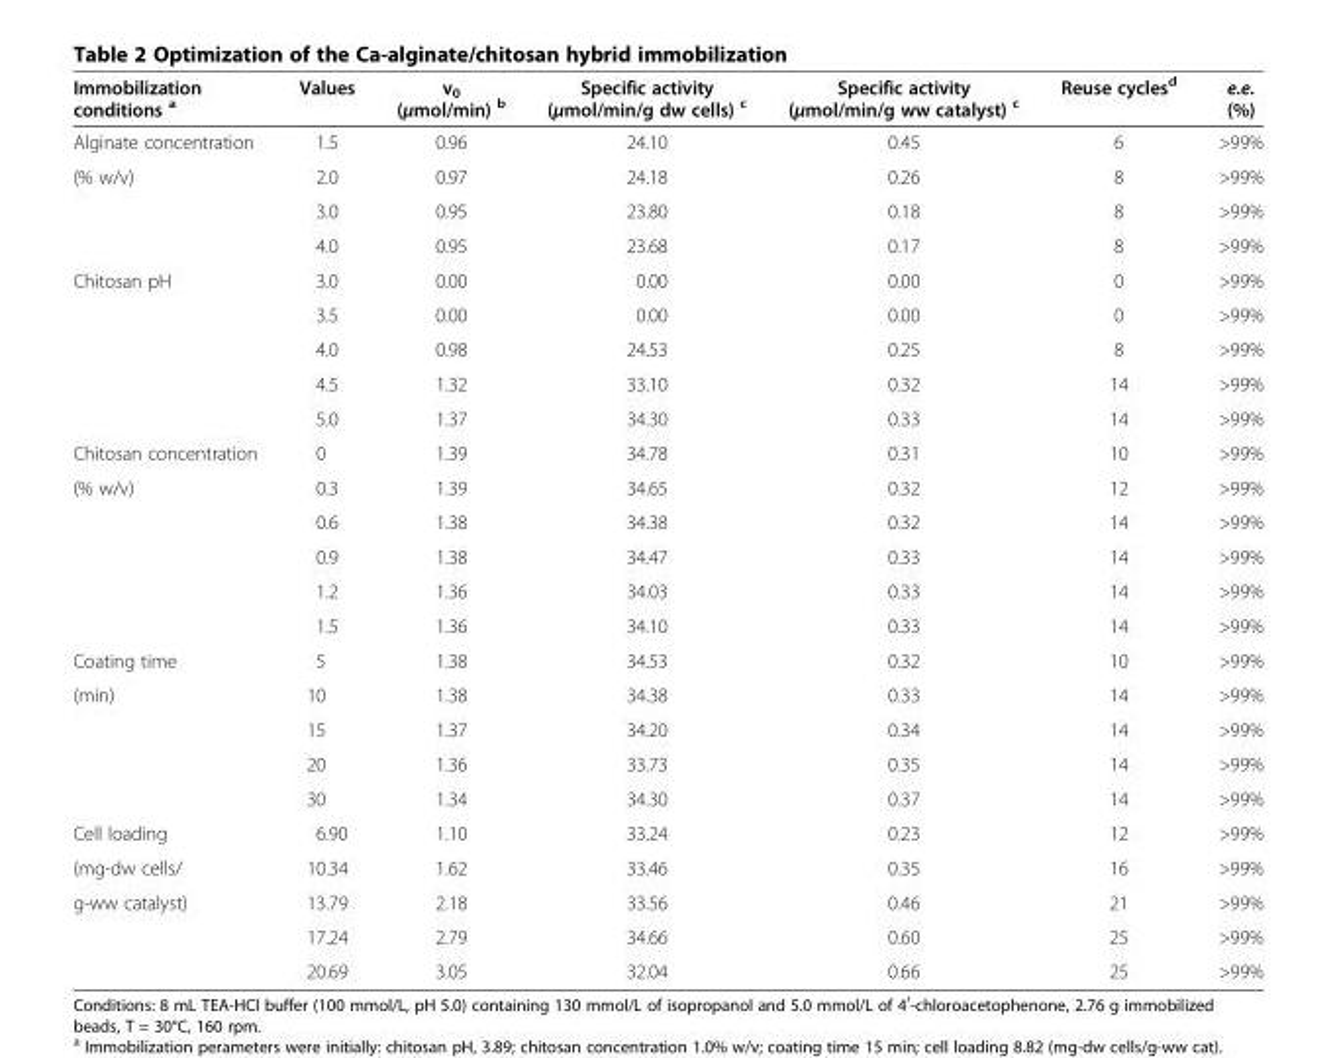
<table><thead><tr><td>Immobilization conditions <sup>a</sup></td><td>Values</td><td>v<sub>0</sub> (μmol/min) <sup>b</sup></td><td>Specific activity (μmol/min/g dw cells) <sup>c</sup></td><td>Specific activity (μmol/min/g ww catalyst) <sup>c</sup></td><td>Reuse cycles<sup>d</sup></td><td>e.e. (%)</td></tr></thead><tbody><tr><td>Alginate concentration</td><td>1.5</td><td>0.96</td><td>24.10</td><td>0.45</td><td>6</td><td>&gt;99%</td></tr><tr><td rowspan="3">(% w/v)</td><td>2.0</td><td>0.97</td><td>24.18</td><td>0.26</td><td>8</td><td>&gt;99%</td></tr><tr><td>3.0</td><td>0.95</td><td>23.80</td><td>0.18</td><td>8</td><td>&gt;99%</td></tr><tr><td>4.0</td><td>0.95</td><td>23.68</td><td>0.17</td><td>8</td><td>&gt;99%</td></tr><tr><td rowspan="5">Chitosan pH</td><td>3.0</td><td>0.00</td><td>0.00</td><td>0.00</td><td>0</td><td>&gt;99%</td></tr><tr><td>3.5</td><td>0.00</td><td>0.00</td><td>0.00</td><td>0</td><td>&gt;99%</td></tr><tr><td>4.0</td><td>0.98</td><td>24.53</td><td>0.25</td><td>8</td><td>&gt;99%</td></tr><tr><td>4.5</td><td>1.32</td><td>33.10</td><td>0.32</td><td>14</td><td>&gt;99%</td></tr><tr><td>5.0</td><td>1.37</td><td>34.30</td><td>0.33</td><td>14</td><td>&gt;99%</td></tr><tr><td>Chitosan concentration</td><td>0</td><td>1.39</td><td>34.78</td><td>0.31</td><td>10</td><td>&gt;99%</td></tr><tr><td rowspan="5">(% w/v)</td><td>0.3</td><td>1.39</td><td>34.65</td><td>0.32</td><td>12</td><td>&gt;99%</td></tr><tr><td>0.6</td><td>1.38</td><td>34.38</td><td>0.32</td><td>14</td><td>&gt;99%</td></tr><tr><td>0.9</td><td>1.38</td><td>34.47</td><td>0.33</td><td>14</td><td>&gt;99%</td></tr><tr><td>1.2</td><td>1.36</td><td>34.03</td><td>0.33</td><td>14</td><td>&gt;99%</td></tr><tr><td>1.5</td><td>1.36</td><td>34.10</td><td>0.33</td><td>14</td><td>&gt;99%</td></tr><tr><td>Coating time</td><td>5</td><td>1.38</td><td>34.53</td><td>0.32</td><td>10</td><td>&gt;99%</td></tr><tr><td rowspan="4">(min)</td><td>10</td><td>1.38</td><td>34.38</td><td>0.33</td><td>14</td><td>&gt;99%</td></tr><tr><td>15</td><td>1.37</td><td>34.20</td><td>0.34</td><td>14</td><td>&gt;99%</td></tr><tr><td>20</td><td>1.36</td><td>33.73</td><td>0.35</td><td>14</td><td>&gt;99%</td></tr><tr><td>30</td><td>1.34</td><td>34.30</td><td>0.37</td><td>14</td><td>&gt;99%</td></tr><tr><td>Cell loading</td><td>6.90</td><td>1.10</td><td>33.24</td><td>0.23</td><td>12</td><td>&gt;99%</td></tr><tr><td>(mg-dw cells/</td><td>10.34</td><td>1.62</td><td>33.46</td><td>0.35</td><td>16</td><td>&gt;99%</td></tr><tr><td rowspan="3">g-ww catalyst)</td><td>13.79</td><td>2.18</td><td>33.56</td><td>0.46</td><td>21</td><td>&gt;99%</td></tr><tr><td>17.24</td><td>2.79</td><td>34.66</td><td>0.60</td><td>25</td><td>&gt;99%</td></tr><tr><td>20.69</td><td>3.05</td><td>32.04</td><td>0.66</td><td>25</td><td>&gt;99%</td></tr></tbody></table>